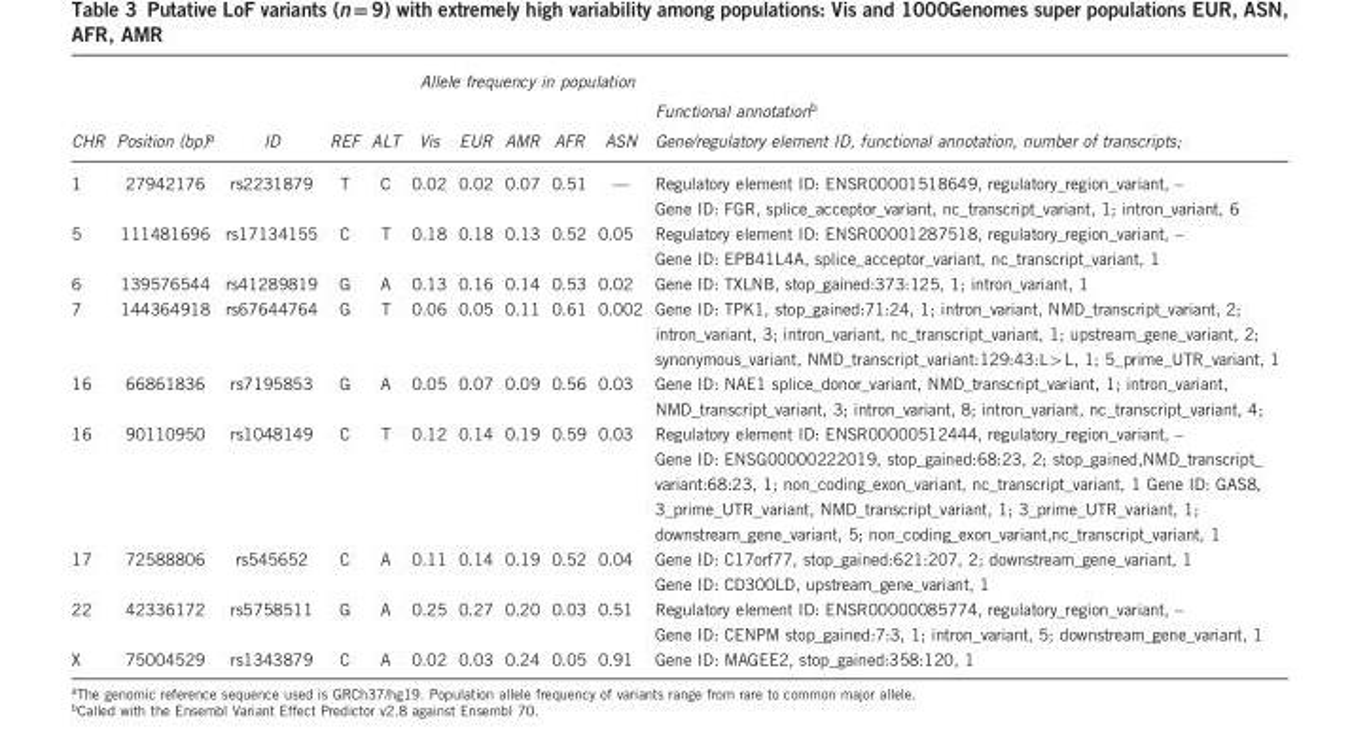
<table><thead><tr><td rowspan="2">CHR</td><td rowspan="2">Position (bp)<sup>a</sup></td><td rowspan="2">ID</td><td rowspan="2">REF</td><td rowspan="2">ALT</td><td colspan="5">Allele frequency in population</td><td rowspan="2">Functional annotation<sup>b</sup> Gene/regulatory element ID, functional annotation, number of transcripts;</td></tr><tr><td>Vis</td><td>EUR</td><td>AMR</td><td>AFR</td><td>ASN</td></tr></thead><tbody><tr><td>1</td><td>27942176</td><td>rs2231879</td><td>T</td><td>C</td><td>0.02</td><td>0.02</td><td>0.07</td><td>0.51</td><td>—</td><td>Regulatory element ID: ENSR00001518649, regulatory_region_variant, – Gene ID: FGR, splice_acceptor_variant, nc_transcript_variant, 1; intron_variant, 6</td></tr><tr><td>5</td><td>111481696</td><td>rs17134155</td><td>C</td><td>T</td><td>0.18</td><td>0.18</td><td>0.13</td><td>0.52</td><td>0.05</td><td>Regulatory element ID: ENSR00001287518, regulatory_region_variant, – Gene ID: EPB41L4A, splice_acceptor_variant, nc_transcript_variant, 1</td></tr><tr><td>6</td><td>139576544</td><td>rs41289819</td><td>G</td><td>A</td><td>0.13</td><td>0.16</td><td>0.14</td><td>0.53</td><td>0.02</td><td>Gene ID: TXLNB, stop_gained:373:125, 1; intron_variant, 1</td></tr><tr><td>7</td><td>144364918</td><td>rs67644764</td><td>G</td><td>T</td><td>0.06</td><td>0.05</td><td>0.11</td><td>0.61</td><td>0.002</td><td>Gene ID: TPK1, stop_gained:71:24, 1; intron_variant, NMD_transcript_variant, 2; intron_variant, 3; intron_variant, nc_transcript_variant, 1; upstream_gene_variant, 2; synonymous_variant, NMD_transcript_variant:129:43:L&gt;L, 1; 5_prime_UTR_variant, 1</td></tr><tr><td>16</td><td>66861836</td><td>rs7195853</td><td>G</td><td>A</td><td>0.05</td><td>0.07</td><td>0.09</td><td>0.56</td><td>0.03</td><td>Gene ID: NAE1 splice_donor_variant, NMD_transcript_variant, 1; intron_variant, NMD_transcript_variant, 3; intron_variant, 8; intron_variant, nc_transcript_variant, 4;</td></tr><tr><td>16</td><td>90110950</td><td>rs1048149</td><td>C</td><td>T</td><td>0.12</td><td>0.14</td><td>0.19</td><td>0.59</td><td>0.03</td><td>Regulatory element ID: ENSR00000512444, regulatory_region_variant, – Gene ID: ENSG00000222019, stop_gained:68:23, 2; stop_gained,NMD_transcript_ variant:68:23, 1; non_coding_exon_variant, nc_transcript_variant, 1 Gene ID: GAS8, 3_prime_UTR_variant, NMD_transcript_variant, 1; 3_prime_UTR_variant, 1; downstream_gene_variant, 5; non_coding_exon_variant,nc_transcript_variant, 1</td></tr><tr><td>17</td><td>72588806</td><td>rs545652</td><td>C</td><td>A</td><td>0.11</td><td>0.14</td><td>0.19</td><td>0.52</td><td>0.04</td><td>Gene ID: C17orf77, stop_gained:621:207, 2; downstream_gene_variant, 1 Gene ID: CD300LD, upstream_gene_variant, 1</td></tr><tr><td>22</td><td>42336172</td><td>rs5758511</td><td>G</td><td>A</td><td>0.25</td><td>0.27</td><td>0.20</td><td>0.03</td><td>0.51</td><td>Regulatory element ID: ENSR00000085774, regulatory_region_variant, – Gene ID: CENPM stop_gained:7:3, 1; intron_variant, 5; downstream_gene_variant, 1</td></tr><tr><td>X</td><td>75004529</td><td>rs1343879</td><td>C</td><td>A</td><td>0.02</td><td>0.03</td><td>0.24</td><td>0.05</td><td>0.91</td><td>Gene ID: MAGEE2, stop_gained:358:120, 1</td></tr></tbody></table>